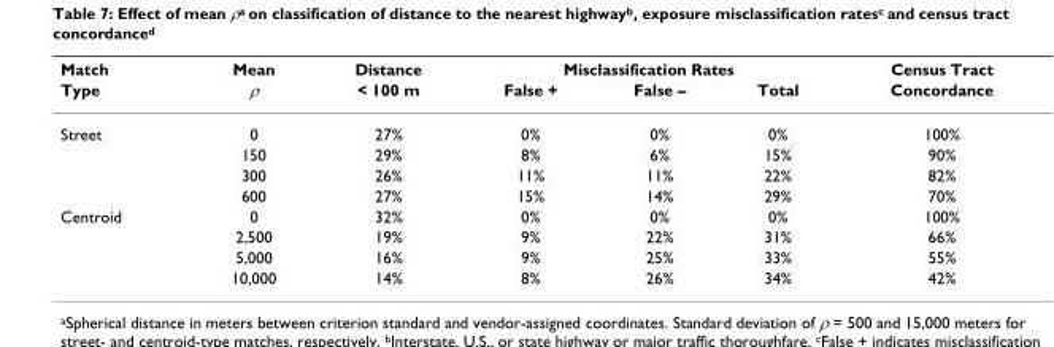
<table><thead><tr><td rowspan="2">Match Type</td><td rowspan="2">Mean ρ</td><td rowspan="2">Distance &lt; 100 m</td><td colspan="3">Misclassification Rates</td><td rowspan="2">Census Tract Concordance</td></tr><tr><td>False +</td><td>False –</td><td>Total</td></tr></thead><tbody><tr><td rowspan="4">Street</td><td>0</td><td>27%</td><td>0%</td><td>0%</td><td>0%</td><td>100%</td></tr><tr><td>150</td><td>29%</td><td>8%</td><td>6%</td><td>15%</td><td>90%</td></tr><tr><td>300</td><td>26%</td><td>11%</td><td>11%</td><td>22%</td><td>82%</td></tr><tr><td>600</td><td>27%</td><td>15%</td><td>14%</td><td>29%</td><td>70%</td></tr><tr><td rowspan="4">Centroid</td><td>0</td><td>32%</td><td>0%</td><td>0%</td><td>0%</td><td>100%</td></tr><tr><td>2,500</td><td>19%</td><td>9%</td><td>22%</td><td>31%</td><td>66%</td></tr><tr><td>5,000</td><td>16%</td><td>9%</td><td>25%</td><td>33%</td><td>55%</td></tr><tr><td>10,000</td><td>14%</td><td>8%</td><td>26%</td><td>34%</td><td>42%</td></tr></tbody></table>